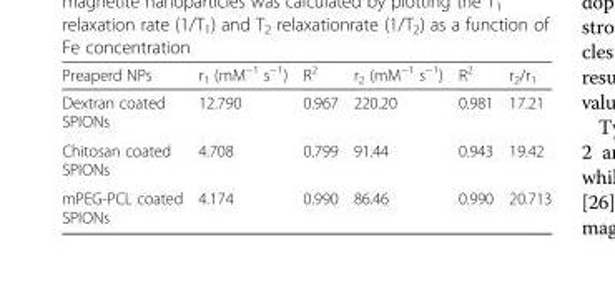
<table><thead><tr><td>Preaperd NPs</td><td>r<sub>1</sub> (mM<sup>−1</sup> s<sup>−1</sup>)</td><td>R<sup>2</sup></td><td>r<sub>2</sub> (mM<sup>−1</sup> s<sup>−1</sup>)</td><td>R<sup>2</sup></td><td>r<sub>2</sub>/r<sub>1</sub></td></tr></thead><tbody><tr><td>Dextran coated SPIONs</td><td>12.790</td><td>0.967</td><td>220.20</td><td>0.981</td><td>17.21</td></tr><tr><td>Chitosan coated SPIONs</td><td>4.708</td><td>0.799</td><td>91.44</td><td>0.943</td><td>19.42</td></tr><tr><td>mPEG-PCL coated SPIONs</td><td>4.174</td><td>0.990</td><td>86.46</td><td>0.990</td><td>20.713</td></tr></tbody></table>